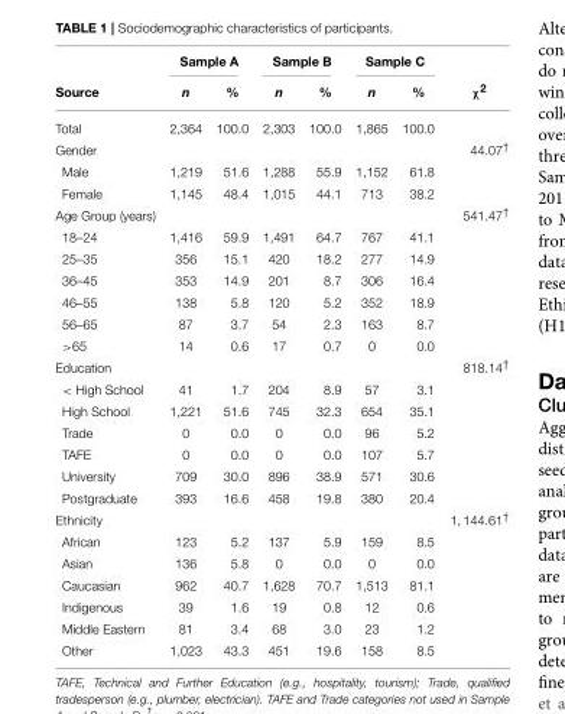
<table><thead><tr><td rowspan="2">Source</td><td colspan="2">Sample A</td><td colspan="2">Sample B</td><td colspan="2">Sample C</td><td rowspan="2">χ<sup>2</sup></td></tr><tr><td>n</td><td>%</td><td>n</td><td>%</td><td>n</td><td>%</td></tr></thead><tbody><tr><td>Total</td><td>2,364</td><td>100.0</td><td>2,303</td><td>100.0</td><td>1,865</td><td>100.0</td><td></td></tr><tr><td>Gender</td><td></td><td></td><td></td><td></td><td></td><td></td><td>44.07<sup>†</sup></td></tr><tr><td>Male</td><td>1,219</td><td>51.6</td><td>1,288</td><td>55.9</td><td>1,152</td><td>61.8</td><td></td></tr><tr><td>Female</td><td>1,145</td><td>48.4</td><td>1,015</td><td>44.1</td><td>713</td><td>38.2</td><td></td></tr><tr><td>Age Group (years)</td><td></td><td></td><td></td><td></td><td></td><td></td><td>541.47<sup>†</sup></td></tr><tr><td>18–24</td><td>1,416</td><td>59.9</td><td>1,491</td><td>64.7</td><td>767</td><td>41.1</td><td></td></tr><tr><td>25–35</td><td>356</td><td>15.1</td><td>420</td><td>18.2</td><td>277</td><td>14.9</td><td></td></tr><tr><td>36–45</td><td>353</td><td>14.9</td><td>201</td><td>8.7</td><td>306</td><td>16.4</td><td></td></tr><tr><td>46–55</td><td>138</td><td>5.8</td><td>120</td><td>5.2</td><td>352</td><td>18.9</td><td></td></tr><tr><td>56–65</td><td>87</td><td>3.7</td><td>54</td><td>2.3</td><td>163</td><td>8.7</td><td></td></tr><tr><td>&gt;65</td><td>14</td><td>0.6</td><td>17</td><td>0.7</td><td>0</td><td>0.0</td><td></td></tr><tr><td>Education</td><td></td><td></td><td></td><td></td><td></td><td></td><td>818.14<sup>†</sup></td></tr><tr><td>&lt; High School</td><td>41</td><td>1.7</td><td>204</td><td>8.9</td><td>57</td><td>3.1</td><td></td></tr><tr><td>High School</td><td>1,221</td><td>51.6</td><td>745</td><td>32.3</td><td>654</td><td>35.1</td><td></td></tr><tr><td>Trade</td><td>0</td><td>0.0</td><td>0</td><td>0.0</td><td>96</td><td>5.2</td><td></td></tr><tr><td>TAFE</td><td>0</td><td>0.0</td><td>0</td><td>0.0</td><td>107</td><td>5.7</td><td></td></tr><tr><td>University</td><td>709</td><td>30.0</td><td>896</td><td>38.9</td><td>571</td><td>30.6</td><td></td></tr><tr><td>Postgraduate</td><td>393</td><td>16.6</td><td>458</td><td>19.8</td><td>380</td><td>20.4</td><td></td></tr><tr><td>Ethnicity</td><td></td><td></td><td></td><td></td><td></td><td></td><td>1, 144.61<sup>†</sup></td></tr><tr><td>African</td><td>123</td><td>5.2</td><td>137</td><td>5.9</td><td>159</td><td>8.5</td><td></td></tr><tr><td>Asian</td><td>136</td><td>5.8</td><td>0</td><td>0.0</td><td>0</td><td>0.0</td><td></td></tr><tr><td>Caucasian</td><td>962</td><td>40.7</td><td>1,628</td><td>70.7</td><td>1,513</td><td>81.1</td><td></td></tr><tr><td>Indigenous</td><td>39</td><td>1.6</td><td>19</td><td>0.8</td><td>12</td><td>0.6</td><td></td></tr><tr><td>Middle Eastern</td><td>81</td><td>3.4</td><td>68</td><td>3.0</td><td>23</td><td>1.2</td><td></td></tr><tr><td>Other</td><td>1,023</td><td>43.3</td><td>451</td><td>19.6</td><td>158</td><td>8.5</td><td></td></tr></tbody></table>